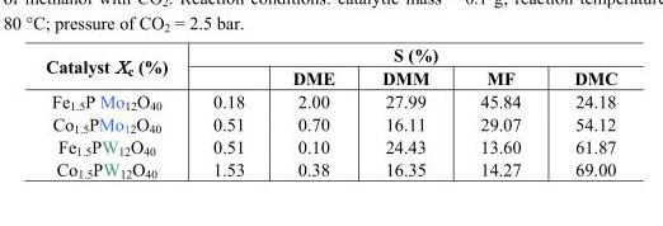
<table><thead><tr><td rowspan="2">Catalyst X<sub>c</sub> (%)</td><td colspan="5">S (%)</td></tr><tr><td></td><td>DME</td><td>DMM</td><td>MF</td><td>DMC</td></tr></thead><tbody><tr><td>Fe<sub>1.5</sub>P Mo<sub>12</sub>O<sub>40</sub></td><td>0.18</td><td>2.00</td><td>27.99</td><td>45.84</td><td>24.18</td></tr><tr><td>Co<sub>1.5</sub>PMo<sub>12</sub>O<sub>40</sub></td><td>0.51</td><td>0.70</td><td>16.11</td><td>29.07</td><td>54.12</td></tr><tr><td>Fe<sub>1.5</sub>PW<sub>12</sub>O<sub>40</sub></td><td>0.51</td><td>0.10</td><td>24.43</td><td>13.60</td><td>61.87</td></tr><tr><td>Co<sub>1.5</sub>PW<sub>12</sub>O<sub>40</sub></td><td>1.53</td><td>0.38</td><td>16.35</td><td>14.27</td><td>69.00</td></tr></tbody></table>